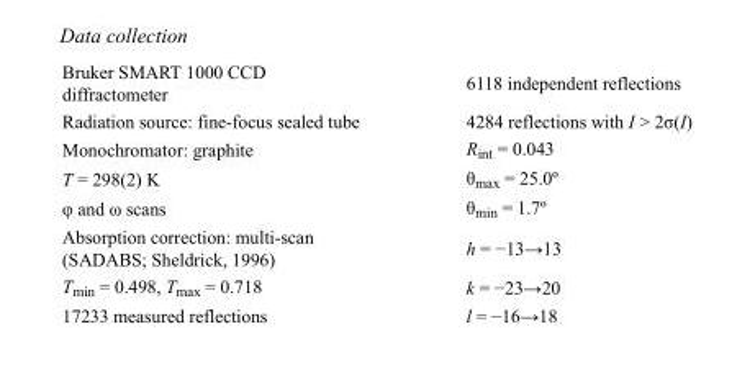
<table><tbody><tr><td>Bruker SMART 1000 CCD diffractometer</td><td>6118 independent reflections</td></tr><tr><td>Radiation source: fine-focus sealed tube</td><td>4284 reflections with I &gt; 2σ(I)</td></tr><tr><td>Monochromator: graphite</td><td>R<sub>int</sub> = 0.043</td></tr><tr><td>T = 298(2) K</td><td>θ<sub>max</sub> = 25.0º</td></tr><tr><td>φ and ω scans</td><td>θ<sub>min</sub> = 1.7º</td></tr><tr><td>Absorption correction: multi-scan (SADABS; Sheldrick, 1996)</td><td>h = −13→13</td></tr><tr><td>T<sub>min</sub> = 0.498, T<sub>max</sub> = 0.718</td><td>k = −23→20</td></tr><tr><td>17233 measured reflections</td><td>l = −16→18</td></tr></tbody></table>